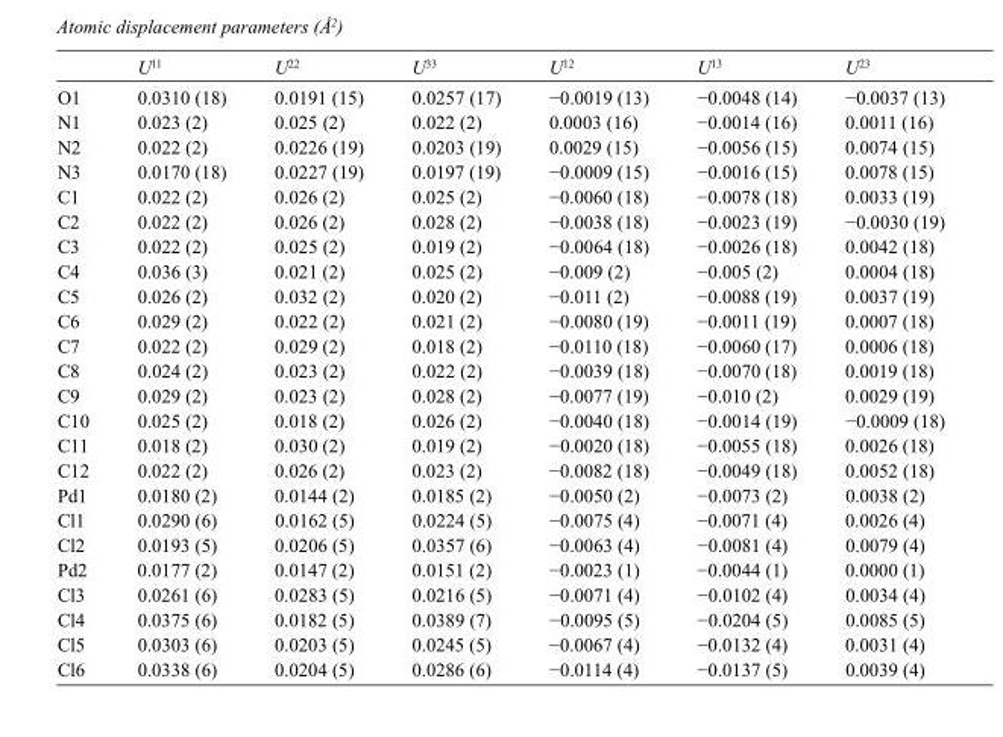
<table><thead><tr><td></td><td>U<sup>11</sup></td><td>U<sup>22</sup></td><td>U<sup>33</sup></td><td>U<sup>12</sup></td><td>U<sup>13</sup></td><td>U<sup>23</sup></td></tr></thead><tbody><tr><td>O1</td><td>0.0310 (18)</td><td>0.0191 (15)</td><td>0.0257 (17)</td><td>−0.0019 (13)</td><td>−0.0048 (14)</td><td>−0.0037 (13)</td></tr><tr><td>N1</td><td>0.023 (2)</td><td>0.025 (2)</td><td>0.022 (2)</td><td>0.0003 (16)</td><td>−0.0014 (16)</td><td>0.0011 (16)</td></tr><tr><td>N2</td><td>0.022 (2)</td><td>0.0226 (19)</td><td>0.0203 (19)</td><td>0.0029 (15)</td><td>−0.0056 (15)</td><td>0.0074 (15)</td></tr><tr><td>N3</td><td>0.0170 (18)</td><td>0.0227 (19)</td><td>0.0197 (19)</td><td>−0.0009 (15)</td><td>−0.0016 (15)</td><td>0.0078 (15)</td></tr><tr><td>C1</td><td>0.022 (2)</td><td>0.026 (2)</td><td>0.025 (2)</td><td>−0.0060 (18)</td><td>−0.0078 (18)</td><td>0.0033 (19)</td></tr><tr><td>C2</td><td>0.022 (2)</td><td>0.026 (2)</td><td>0.028 (2)</td><td>−0.0038 (18)</td><td>−0.0023 (19)</td><td>−0.0030 (19)</td></tr><tr><td>C3</td><td>0.022 (2)</td><td>0.025 (2)</td><td>0.019 (2)</td><td>−0.0064 (18)</td><td>−0.0026 (18)</td><td>0.0042 (18)</td></tr><tr><td>C4</td><td>0.036 (3)</td><td>0.021 (2)</td><td>0.025 (2)</td><td>−0.009 (2)</td><td>−0.005 (2)</td><td>0.0004 (18)</td></tr><tr><td>C5</td><td>0.026 (2)</td><td>0.032 (2)</td><td>0.020 (2)</td><td>−0.011 (2)</td><td>−0.0088 (19)</td><td>0.0037 (19)</td></tr><tr><td>C6</td><td>0.029 (2)</td><td>0.022 (2)</td><td>0.021 (2)</td><td>−0.0080 (19)</td><td>−0.0011 (19)</td><td>0.0007 (18)</td></tr><tr><td>C7</td><td>0.022 (2)</td><td>0.029 (2)</td><td>0.018 (2)</td><td>−0.0110 (18)</td><td>−0.0060 (17)</td><td>0.0006 (18)</td></tr><tr><td>C8</td><td>0.024 (2)</td><td>0.023 (2)</td><td>0.022 (2)</td><td>−0.0039 (18)</td><td>−0.0070 (18)</td><td>0.0019 (18)</td></tr><tr><td>C9</td><td>0.029 (2)</td><td>0.023 (2)</td><td>0.028 (2)</td><td>−0.0077 (19)</td><td>−0.010 (2)</td><td>0.0029 (19)</td></tr><tr><td>C10</td><td>0.025 (2)</td><td>0.018 (2)</td><td>0.026 (2)</td><td>−0.0040 (18)</td><td>−0.0014 (19)</td><td>−0.0009 (18)</td></tr><tr><td>C11</td><td>0.018 (2)</td><td>0.030 (2)</td><td>0.019 (2)</td><td>−0.0020 (18)</td><td>−0.0055 (18)</td><td>0.0026 (18)</td></tr><tr><td>C12</td><td>0.022 (2)</td><td>0.026 (2)</td><td>0.023 (2)</td><td>−0.0082 (18)</td><td>−0.0049 (18)</td><td>0.0052 (18)</td></tr><tr><td>Pd1</td><td>0.0180 (2)</td><td>0.0144 (2)</td><td>0.0185 (2)</td><td>−0.0050 (2)</td><td>−0.0073 (2)</td><td>0.0038 (2)</td></tr><tr><td>Cl1</td><td>0.0290 (6)</td><td>0.0162 (5)</td><td>0.0224 (5)</td><td>−0.0075 (4)</td><td>−0.0071 (4)</td><td>0.0026 (4)</td></tr><tr><td>Cl2</td><td>0.0193 (5)</td><td>0.0206 (5)</td><td>0.0357 (6)</td><td>−0.0063 (4)</td><td>−0.0081 (4)</td><td>0.0079 (4)</td></tr><tr><td>Pd2</td><td>0.0177 (2)</td><td>0.0147 (2)</td><td>0.0151 (2)</td><td>−0.0023 (1)</td><td>−0.0044 (1)</td><td>0.0000 (1)</td></tr><tr><td>Cl3</td><td>0.0261 (6)</td><td>0.0283 (5)</td><td>0.0216 (5)</td><td>−0.0071 (4)</td><td>−0.0102 (4)</td><td>0.0034 (4)</td></tr><tr><td>Cl4</td><td>0.0375 (6)</td><td>0.0182 (5)</td><td>0.0389 (7)</td><td>−0.0095 (5)</td><td>−0.0204 (5)</td><td>0.0085 (5)</td></tr><tr><td>Cl5</td><td>0.0303 (6)</td><td>0.0203 (5)</td><td>0.0245 (5)</td><td>−0.0067 (4)</td><td>−0.0132 (4)</td><td>0.0031 (4)</td></tr><tr><td>Cl6</td><td>0.0338 (6)</td><td>0.0204 (5)</td><td>0.0286 (6)</td><td>−0.0114 (4)</td><td>−0.0137 (5)</td><td>0.0039 (4)</td></tr></tbody></table>